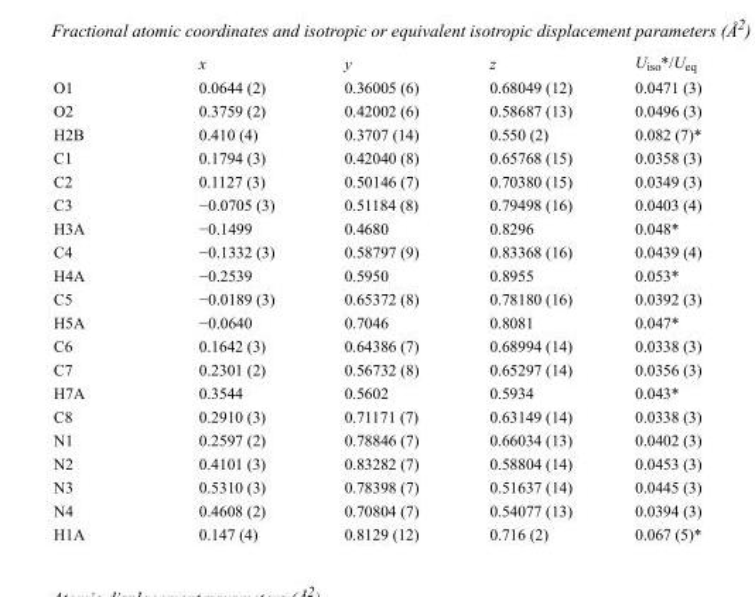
<table><thead><tr><td></td><td>x</td><td>y</td><td>z</td><td>U<sub>iso</sub>*/U<sub>eq</sub></td></tr></thead><tbody><tr><td>O1</td><td>0.0644 (2)</td><td>0.36005 (6)</td><td>0.68049 (12)</td><td>0.0471 (3)</td></tr><tr><td>O2</td><td>0.3759 (2)</td><td>0.42002 (6)</td><td>0.58687 (13)</td><td>0.0496 (3)</td></tr><tr><td>H2B</td><td>0.410 (4)</td><td>0.3707 (14)</td><td>0.550 (2)</td><td>0.082 (7)*</td></tr><tr><td>C1</td><td>0.1794 (3)</td><td>0.42040 (8)</td><td>0.65768 (15)</td><td>0.0358 (3)</td></tr><tr><td>C2</td><td>0.1127 (3)</td><td>0.50146 (7)</td><td>0.70380 (15)</td><td>0.0349 (3)</td></tr><tr><td>C3</td><td>−0.0705 (3)</td><td>0.51184 (8)</td><td>0.79498 (16)</td><td>0.0403 (4)</td></tr><tr><td>H3A</td><td>−0.1499</td><td>0.4680</td><td>0.8296</td><td>0.048*</td></tr><tr><td>C4</td><td>−0.1332 (3)</td><td>0.58797 (9)</td><td>0.83368 (16)</td><td>0.0439 (4)</td></tr><tr><td>H4A</td><td>−0.2539</td><td>0.5950</td><td>0.8955</td><td>0.053*</td></tr><tr><td>C5</td><td>−0.0189 (3)</td><td>0.65372 (8)</td><td>0.78180 (16)</td><td>0.0392 (3)</td></tr><tr><td>H5A</td><td>−0.0640</td><td>0.7046</td><td>0.8081</td><td>0.047*</td></tr><tr><td>C6</td><td>0.1642 (3)</td><td>0.64386 (7)</td><td>0.68994 (14)</td><td>0.0338 (3)</td></tr><tr><td>C7</td><td>0.2301 (2)</td><td>0.56732 (8)</td><td>0.65297 (14)</td><td>0.0356 (3)</td></tr><tr><td>H7A</td><td>0.3544</td><td>0.5602</td><td>0.5934</td><td>0.043*</td></tr><tr><td>C8</td><td>0.2910 (3)</td><td>0.71171 (7)</td><td>0.63149 (14)</td><td>0.0338 (3)</td></tr><tr><td>N1</td><td>0.2597 (2)</td><td>0.78846 (7)</td><td>0.66034 (13)</td><td>0.0402 (3)</td></tr><tr><td>N2</td><td>0.4101 (3)</td><td>0.83282 (7)</td><td>0.58804 (14)</td><td>0.0453 (3)</td></tr><tr><td>N3</td><td>0.5310 (3)</td><td>0.78398 (7)</td><td>0.51637 (14)</td><td>0.0445 (3)</td></tr><tr><td>N4</td><td>0.4608 (2)</td><td>0.70804 (7)</td><td>0.54077 (13)</td><td>0.0394 (3)</td></tr><tr><td>H1A</td><td>0.147 (4)</td><td>0.8129 (12)</td><td>0.716 (2)</td><td>0.067 (5)*</td></tr></tbody></table>